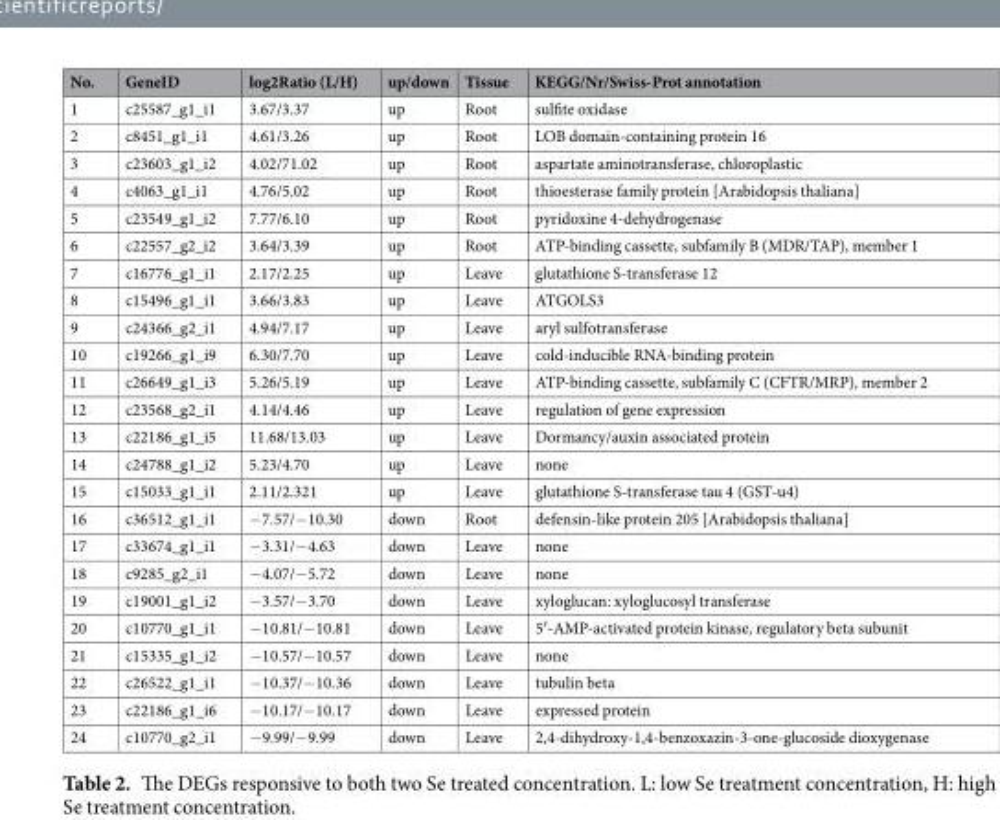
<table><thead><tr><td>No.</td><td>GeneID</td><td>log2Ratio (L/H)</td><td>up/down</td><td>Tissue</td><td>KEGG/Nr/Swiss-Prot annotation</td></tr></thead><tbody><tr><td>1</td><td>c25587_g1_i1</td><td>3.67/3.37</td><td>up</td><td>Root</td><td>sulfite oxidase</td></tr><tr><td>2</td><td>c8451_g1_i1</td><td>4.61/3.26</td><td>up</td><td>Root</td><td>LOB domain-containing protein 16</td></tr><tr><td>3</td><td>c23603_g1_i2</td><td>4.02/71.02</td><td>up</td><td>Root</td><td>aspartate aminotransferase, chloroplastic</td></tr><tr><td>4</td><td>c4063_g1_i1</td><td>4.76/5.02</td><td>up</td><td>Root</td><td>thioesterase family protein [Arabidopsis thaliana]</td></tr><tr><td>5</td><td>c23549_g1_i2</td><td>7.77/6.10</td><td>up</td><td>Root</td><td>pyridoxine 4-dehydrogenase</td></tr><tr><td>6</td><td>c22557_g2_i2</td><td>3.64/3.39</td><td>up</td><td>Root</td><td>ATP-binding cassette, subfamily B (MDR/TAP), member 1</td></tr><tr><td>7</td><td>c16776_g1_i1</td><td>2.17/2.25</td><td>up</td><td>Leave</td><td>glutathione S-transferase 12</td></tr><tr><td>8</td><td>c15496_g1_i1</td><td>3.66/3.83</td><td>up</td><td>Leave</td><td>ATGOLS3</td></tr><tr><td>9</td><td>c24366_g2_i1</td><td>4.94/7.17</td><td>up</td><td>Leave</td><td>aryl sulfotransferase</td></tr><tr><td>10</td><td>c19266_g1_i9</td><td>6.30/7.70</td><td>up</td><td>Leave</td><td>cold-inducible RNA-binding protein</td></tr><tr><td>11</td><td>c26649_g1_i3</td><td>5.26/5.19</td><td>up</td><td>Leave</td><td>ATP-binding cassette, subfamily C (CFTR/MRP), member 2</td></tr><tr><td>12</td><td>c23568_g2_i1</td><td>4.14/4.46</td><td>up</td><td>Leave</td><td>regulation of gene expression</td></tr><tr><td>13</td><td>c22186_g1_i5</td><td>11.68/13.03</td><td>up</td><td>Leave</td><td>Dormancy/auxin associated protein</td></tr><tr><td>14</td><td>c24788_g1_i2</td><td>5.23/4.70</td><td>up</td><td>Leave</td><td>none</td></tr><tr><td>15</td><td>c15033_g1_i1</td><td>2.11/2.321</td><td>up</td><td>Leave</td><td>glutathione S-transferase tau 4 (GST-u4)</td></tr><tr><td>16</td><td>c36512_g1_i1</td><td>−7.57/−10.30</td><td>down</td><td>Root</td><td>defensin-like protein 205 [Arabidopsis thaliana]</td></tr><tr><td>17</td><td>c33674_g1_i1</td><td>−3.31/−4.63</td><td>down</td><td>Leave</td><td>none</td></tr><tr><td>18</td><td>c9285_g2_i1</td><td>−4.07/−5.72</td><td>down</td><td>Leave</td><td>none</td></tr><tr><td>19</td><td>c19001_g1_i2</td><td>−3.57/−3.70</td><td>down</td><td>Leave</td><td>xyloglucan: xyloglucosyl transferase</td></tr><tr><td>20</td><td>c10770_g1_i1</td><td>−10.81/−10.81</td><td>down</td><td>Leave</td><td>5′-AMP-activated protein kinase, regulatory beta subunit</td></tr><tr><td>21</td><td>c15335_g1_i2</td><td>−10.57/−10.57</td><td>down</td><td>Leave</td><td>none</td></tr><tr><td>22</td><td>c26522_g1_i1</td><td>−10.37/−10.36</td><td>down</td><td>Leave</td><td>tubulin beta</td></tr><tr><td>23</td><td>c22186_g1_i6</td><td>−10.17/−10.17</td><td>down</td><td>Leave</td><td>expressed protein</td></tr><tr><td>24</td><td>c10770_g2_i1</td><td>−9.99/−9.99</td><td>down</td><td>Leave</td><td>2,4-dihydroxy-1,4-benzoxazin-3-one-glucoside dioxygenase</td></tr></tbody></table>